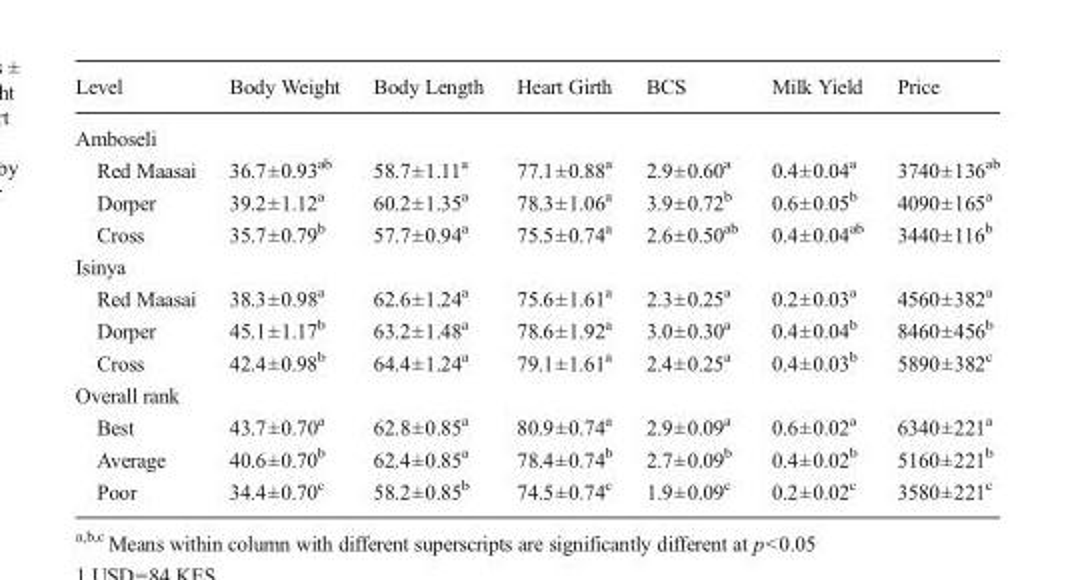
<table><thead><tr><td>Level</td><td>Body Weight</td><td>Body Length</td><td>Heart Girth</td><td>BCS</td><td>Milk Yield</td><td>Price</td></tr></thead><tbody><tr><td colspan="7">Amboseli</td></tr><tr><td>Red Maasai</td><td>36.7±0.93<sup>ab</sup></td><td>58.7±1.11<sup>a</sup></td><td>77.1±0.88<sup>a</sup></td><td>2.9±0.60<sup>a</sup></td><td>0.4±0.04<sup>a</sup></td><td>3740±136<sup>ab</sup></td></tr><tr><td>Dorper</td><td>39.2±1.12<sup>a</sup></td><td>60.2±1.35<sup>a</sup></td><td>78.3±1.06<sup>a</sup></td><td>3.9±0.72<sup>b</sup></td><td>0.6±0.05<sup>b</sup></td><td>4090±165<sup>a</sup></td></tr><tr><td>Cross</td><td>35.7±0.79<sup>b</sup></td><td>57.7±0.94<sup>a</sup></td><td>75.5±0.74<sup>a</sup></td><td>2.6±0.50<sup>ab</sup></td><td>0.4±0.04<sup>ab</sup></td><td>3440±116<sup>b</sup></td></tr><tr><td colspan="7">Isinya</td></tr><tr><td>Red Maasai</td><td>38.3±0.98<sup>a</sup></td><td>62.6±1.24<sup>a</sup></td><td>75.6±1.61<sup>a</sup></td><td>2.3±0.25<sup>a</sup></td><td>0.2±0.03<sup>a</sup></td><td>4560±382<sup>a</sup></td></tr><tr><td>Dorper</td><td>45.1±1.17<sup>b</sup></td><td>63.2±1.48<sup>a</sup></td><td>78.6±1.92<sup>a</sup></td><td>3.0±0.30<sup>a</sup></td><td>0.4±0.04<sup>b</sup></td><td>8460±456<sup>b</sup></td></tr><tr><td>Cross</td><td>42.4±0.98<sup>b</sup></td><td>64.4±1.24<sup>a</sup></td><td>79.1±1.61<sup>a</sup></td><td>2.4±0.25<sup>a</sup></td><td>0.4±0.03<sup>b</sup></td><td>5890±382<sup>c</sup></td></tr><tr><td colspan="7">Overall rank</td></tr><tr><td>Best</td><td>43.7±0.70<sup>a</sup></td><td>62.8±0.85<sup>a</sup></td><td>80.9±0.74<sup>a</sup></td><td>2.9±0.09<sup>a</sup></td><td>0.6±0.02<sup>a</sup></td><td>6340±221<sup>a</sup></td></tr><tr><td>Average</td><td>40.6±0.70<sup>b</sup></td><td>62.4±0.85<sup>a</sup></td><td>78.4±0.74<sup>b</sup></td><td>2.7±0.09<sup>b</sup></td><td>0.4±0.02<sup>b</sup></td><td>5160±221<sup>b</sup></td></tr><tr><td>Poor</td><td>34.4±0.70<sup>c</sup></td><td>58.2±0.85<sup>b</sup></td><td>74.5±0.74<sup>c</sup></td><td>1.9±0.09<sup>c</sup></td><td>0.2±0.02<sup>c</sup></td><td>3580±221<sup>c</sup></td></tr></tbody></table>